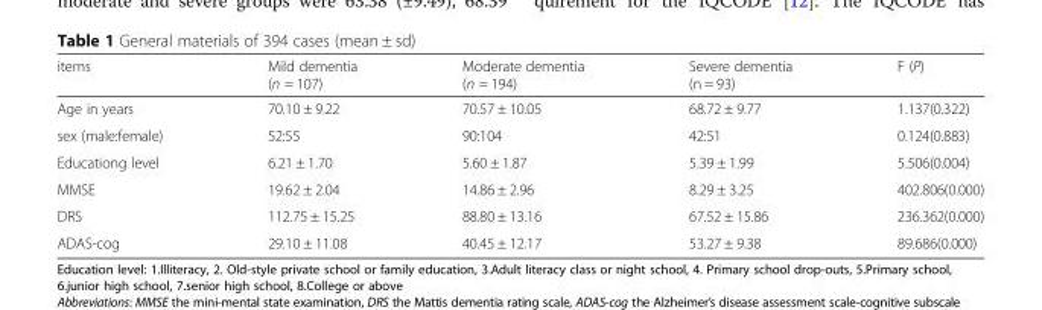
<table><thead><tr><td>items</td><td>Mild dementia (n = 107)</td><td>Moderate dementia (n = 194)</td><td>Severe dementia (n = 93)</td><td>F (P)</td></tr></thead><tbody><tr><td>Age in years</td><td>70.10 ± 9.22</td><td>70.57 ± 10.05</td><td>68.72 ± 9.77</td><td>1.137(0.322)</td></tr><tr><td>sex (male:female)</td><td>52:55</td><td>90:104</td><td>42:51</td><td>0.124(0.883)</td></tr><tr><td>Educationg level</td><td>6.21 ± 1.70</td><td>5.60 ± 1.87</td><td>5.39 ± 1.99</td><td>5.506(0.004)</td></tr><tr><td>MMSE</td><td>19.62 ± 2.04</td><td>14.86 ± 2.96</td><td>8.29 ± 3.25</td><td>402.806(0.000)</td></tr><tr><td>DRS</td><td>112.75 ± 15.25</td><td>88.80 ± 13.16</td><td>67.52 ± 15.86</td><td>236.362(0.000)</td></tr><tr><td>ADAS-cog</td><td>29.10 ± 11.08</td><td>40.45 ± 12.17</td><td>53.27 ± 9.38</td><td>89.686(0.000)</td></tr></tbody></table>